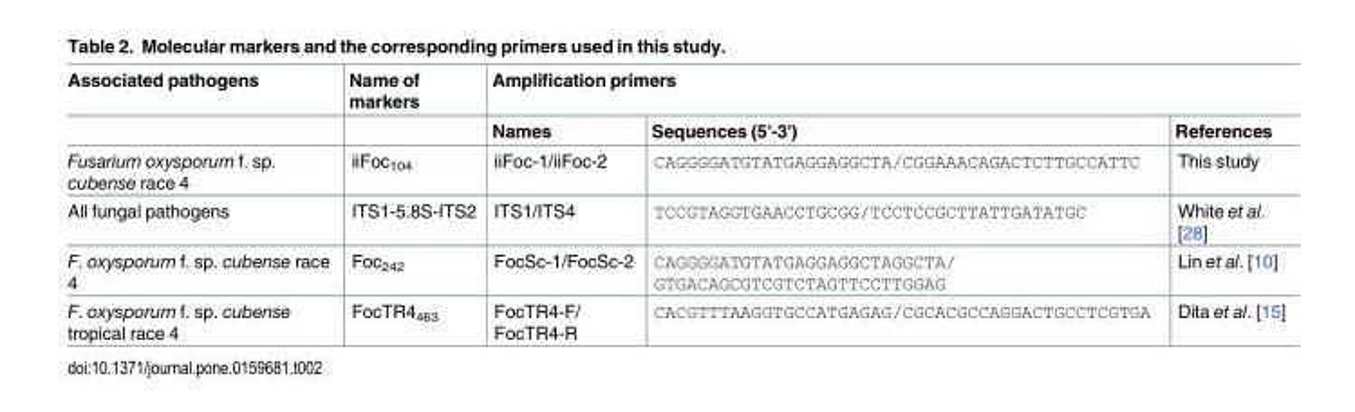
<table><thead><tr><td rowspan="2">Associated pathogens</td><td rowspan="2">Name of markers</td><td colspan="3">Amplification primers</td></tr><tr><td>Names</td><td>Sequences (5&#x27;-3&#x27;)</td><td>References</td></tr></thead><tbody><tr><td>Fusarium oxysporum f. sp. cubense race 4</td><td>iiFoc<sub>104</sub></td><td>iiFoc-1/iiFoc-2</td><td>CAGGGGATGTATGAGGAGGCTA/CGGAAACAGACTCTTGCCATTC</td><td>This study</td></tr><tr><td>All fungal pathogens</td><td>ITS1-5.8S-ITS2</td><td>ITS1/ITS4</td><td>TCCGTAGGTGAACCTGCGG/TCCTCCGCTTATTGATATGC</td><td>White et al. [28]</td></tr><tr><td>F. oxysporum f. sp. cubense race 4</td><td>Foc<sub>242</sub></td><td>FocSc-1/FocSc-2</td><td>CAGGGGATGTATGAGGAGGCTAGGCTA/ GTGACAGCGTCGTCTAGTTCCTTGGAG</td><td>Lin et al. [10]</td></tr><tr><td>F. oxysporum f. sp. cubense tropical race 4</td><td>FocTR4<sub>463</sub></td><td>FocTR4-F/ FocTR4-R</td><td>CACGTTTAAGGTGCCATGAGAG/CGCACGCCAGGACTGCCTCGTGA</td><td>Dita et al. [15]</td></tr></tbody></table>